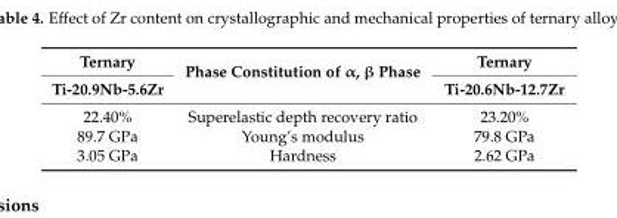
<table><thead><tr><td rowspan="2">Ternary Ti-20.9Nb-5.6Zr</td><td rowspan="2">Phase Constitution of α, β Phase</td><td rowspan="2">Ternary Ti-20.6Nb-12.7Zr</td></tr><tr></tr></thead><tbody><tr><td>22.40%</td><td>Superelastic depth recovery ratio</td><td>23.20%</td></tr><tr><td>89.7 GPa</td><td>Young’s modulus</td><td>79.8 GPa</td></tr><tr><td>3.05 GPa</td><td>Hardness</td><td>2.62 GPa</td></tr></tbody></table>